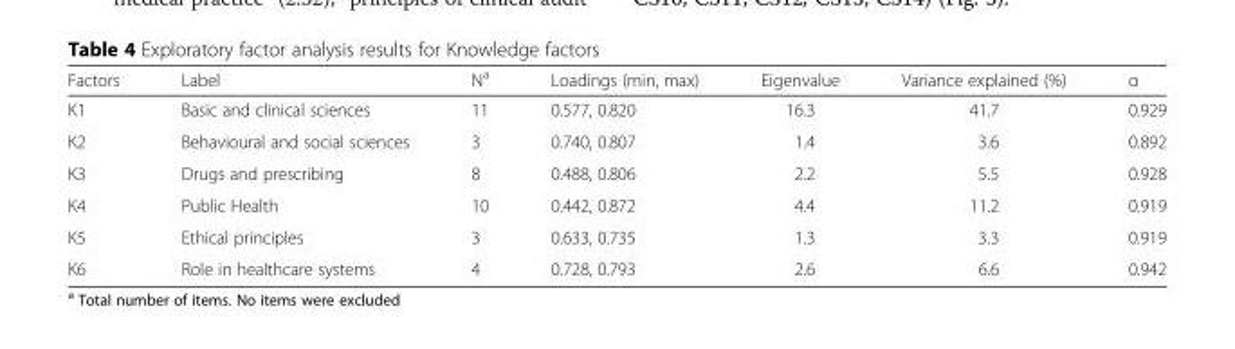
<table><thead><tr><td>Factors</td><td>Label</td><td>N<sup>a</sup></td><td>Loadings (min, max)</td><td>Eigenvalue</td><td>Variance explained (%)</td><td>α</td></tr></thead><tbody><tr><td>K1</td><td>Basic and clinical sciences</td><td>11</td><td>0.577, 0.820</td><td>16.3</td><td>41.7</td><td>0.929</td></tr><tr><td>K2</td><td>Behavioural and social sciences</td><td>3</td><td>0.740, 0.807</td><td>1.4</td><td>3.6</td><td>0.892</td></tr><tr><td>K3</td><td>Drugs and prescribing</td><td>8</td><td>0.488, 0.806</td><td>2.2</td><td>5.5</td><td>0.928</td></tr><tr><td>K4</td><td>Public Health</td><td>10</td><td>0.442, 0.872</td><td>4.4</td><td>11.2</td><td>0.919</td></tr><tr><td>K5</td><td>Ethical principles</td><td>3</td><td>0.633, 0.735</td><td>1.3</td><td>3.3</td><td>0.919</td></tr><tr><td>K6</td><td>Role in healthcare systems</td><td>4</td><td>0.728, 0.793</td><td>2.6</td><td>6.6</td><td>0.942</td></tr></tbody></table>